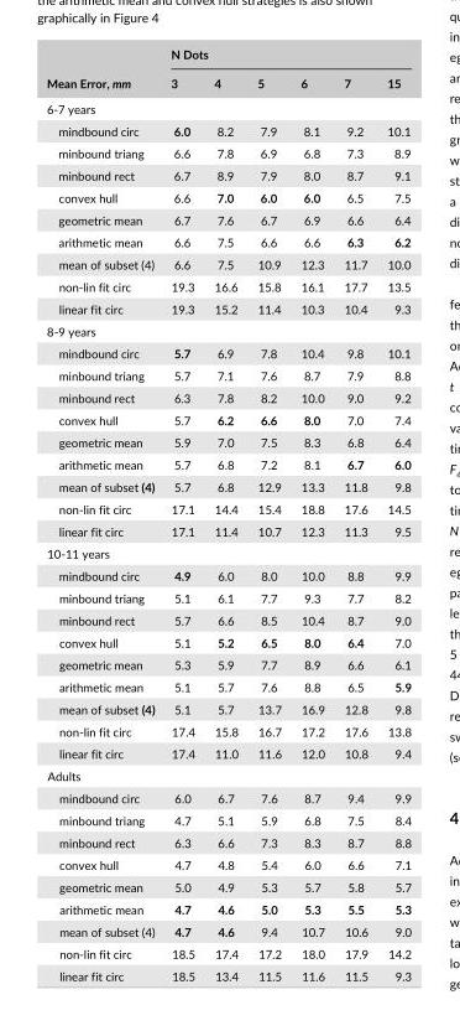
<table><thead><tr><td rowspan="2">Mean Error, mm</td><td colspan="6">N Dots</td></tr><tr><td>3</td><td>4</td><td>5</td><td>6</td><td>7</td><td>15</td></tr></thead><tbody><tr><td colspan="7">6- 7 years</td></tr><tr><td>mindbound circ</td><td>6.0</td><td>8.2</td><td>7.9</td><td>8.1</td><td>9.2</td><td>10.1</td></tr><tr><td>minbound triang</td><td>6.6</td><td>7.8</td><td>6.9</td><td>6.8</td><td>7.3</td><td>8.9</td></tr><tr><td>minbound rect</td><td>6.7</td><td>8.9</td><td>7.9</td><td>8.0</td><td>8.7</td><td>9.1</td></tr><tr><td>convex hull</td><td>6.6</td><td>7.0</td><td>6.0</td><td>6.0</td><td>6.5</td><td>7.5</td></tr><tr><td>geometric mean</td><td>6.7</td><td>7.6</td><td>6.7</td><td>6.9</td><td>6.6</td><td>6.4</td></tr><tr><td>arithmetic mean</td><td>6.6</td><td>7.5</td><td>6.6</td><td>6.6</td><td>6.3</td><td>6.2</td></tr><tr><td>mean of subset (4)</td><td>6.6</td><td>7.5</td><td>10.9</td><td>12.3</td><td>11.7</td><td>10.0</td></tr><tr><td>non- lin fit circ</td><td>19.3</td><td>16.6</td><td>15.8</td><td>16.1</td><td>17.7</td><td>13.5</td></tr><tr><td>linear fit circ</td><td>19.3</td><td>15.2</td><td>11.4</td><td>10.3</td><td>10.4</td><td>9.3</td></tr><tr><td colspan="7">8- 9 years</td></tr><tr><td>mindbound circ</td><td>5.7</td><td>6.9</td><td>7.8</td><td>10.4</td><td>9.8</td><td>10.1</td></tr><tr><td>minbound triang</td><td>5.7</td><td>7.1</td><td>7.6</td><td>8.7</td><td>7.9</td><td>8.8</td></tr><tr><td>minbound rect</td><td>6.3</td><td>7.8</td><td>8.2</td><td>10.0</td><td>9.0</td><td>9.2</td></tr><tr><td>convex hull</td><td>5.7</td><td>6.2</td><td>6.6</td><td>8.0</td><td>7.0</td><td>7.4</td></tr><tr><td>geometric mean</td><td>5.9</td><td>7.0</td><td>7.5</td><td>8.3</td><td>6.8</td><td>6.4</td></tr><tr><td>arithmetic mean</td><td>5.7</td><td>6.8</td><td>7.2</td><td>8.1</td><td>6.7</td><td>6.0</td></tr><tr><td>mean of subset (4)</td><td>5.7</td><td>6.8</td><td>12.9</td><td>13.3</td><td>11.8</td><td>9.8</td></tr><tr><td>non- lin fit circ</td><td>17.1</td><td>14.4</td><td>15.4</td><td>18.8</td><td>17.6</td><td>14.5</td></tr><tr><td>linear fit circ</td><td>17.1</td><td>11.4</td><td>10.7</td><td>12.3</td><td>11.3</td><td>9.5</td></tr><tr><td colspan="7">10- 11 years</td></tr><tr><td>mindbound circ</td><td>4.9</td><td>6.0</td><td>8.0</td><td>10.0</td><td>8.8</td><td>9.9</td></tr><tr><td>minbound triang</td><td>5.1</td><td>6.1</td><td>7.7</td><td>9.3</td><td>7.7</td><td>8.2</td></tr><tr><td>minbound rect</td><td>5.7</td><td>6.6</td><td>8.5</td><td>10.4</td><td>8.7</td><td>9.0</td></tr><tr><td>convex hull</td><td>5.1</td><td>5.2</td><td>6.5</td><td>8.0</td><td>6.4</td><td>7.0</td></tr><tr><td>geometric mean</td><td>5.3</td><td>5.9</td><td>7.7</td><td>8.9</td><td>6.6</td><td>6.1</td></tr><tr><td>arithmetic mean</td><td>5.1</td><td>5.7</td><td>7.6</td><td>8.8</td><td>6.5</td><td>5.9</td></tr><tr><td>mean of subset (4)</td><td>5.1</td><td>5.7</td><td>13.7</td><td>16.9</td><td>12.8</td><td>9.8</td></tr><tr><td>non- lin fit circ</td><td>17.4</td><td>15.8</td><td>16.7</td><td>17.2</td><td>17.6</td><td>13.8</td></tr><tr><td>linear fit circ</td><td>17.4</td><td>11.0</td><td>11.6</td><td>12.0</td><td>10.8</td><td>9.4</td></tr><tr><td colspan="7">Adults</td></tr><tr><td>mindbound circ</td><td>6.0</td><td>6.7</td><td>7.6</td><td>8.7</td><td>9.4</td><td>9.9</td></tr><tr><td>minbound triang</td><td>4.7</td><td>5.1</td><td>5.9</td><td>6.8</td><td>7.5</td><td>8.4</td></tr><tr><td>minbound rect</td><td>6.3</td><td>6.6</td><td>7.3</td><td>8.3</td><td>8.7</td><td>8.8</td></tr><tr><td>convex hull</td><td>4.7</td><td>4.8</td><td>5.4</td><td>6.0</td><td>6.6</td><td>7.1</td></tr><tr><td>geometric mean</td><td>5.0</td><td>4.9</td><td>5.3</td><td>5.7</td><td>5.8</td><td>5.7</td></tr><tr><td>arithmetic mean</td><td>4.7</td><td>4.6</td><td>5.0</td><td>5.3</td><td>5.5</td><td>5.3</td></tr><tr><td>mean of subset (4)</td><td>4.7</td><td>4.6</td><td>9.4</td><td>10.7</td><td>10.6</td><td>9.0</td></tr><tr><td>non- lin fit circ</td><td>18.5</td><td>17.4</td><td>17.2</td><td>18.0</td><td>17.9</td><td>14.2</td></tr><tr><td>linear fit circ</td><td>18.5</td><td>13.4</td><td>11.5</td><td>11.6</td><td>11.5</td><td>9.3</td></tr></tbody></table>